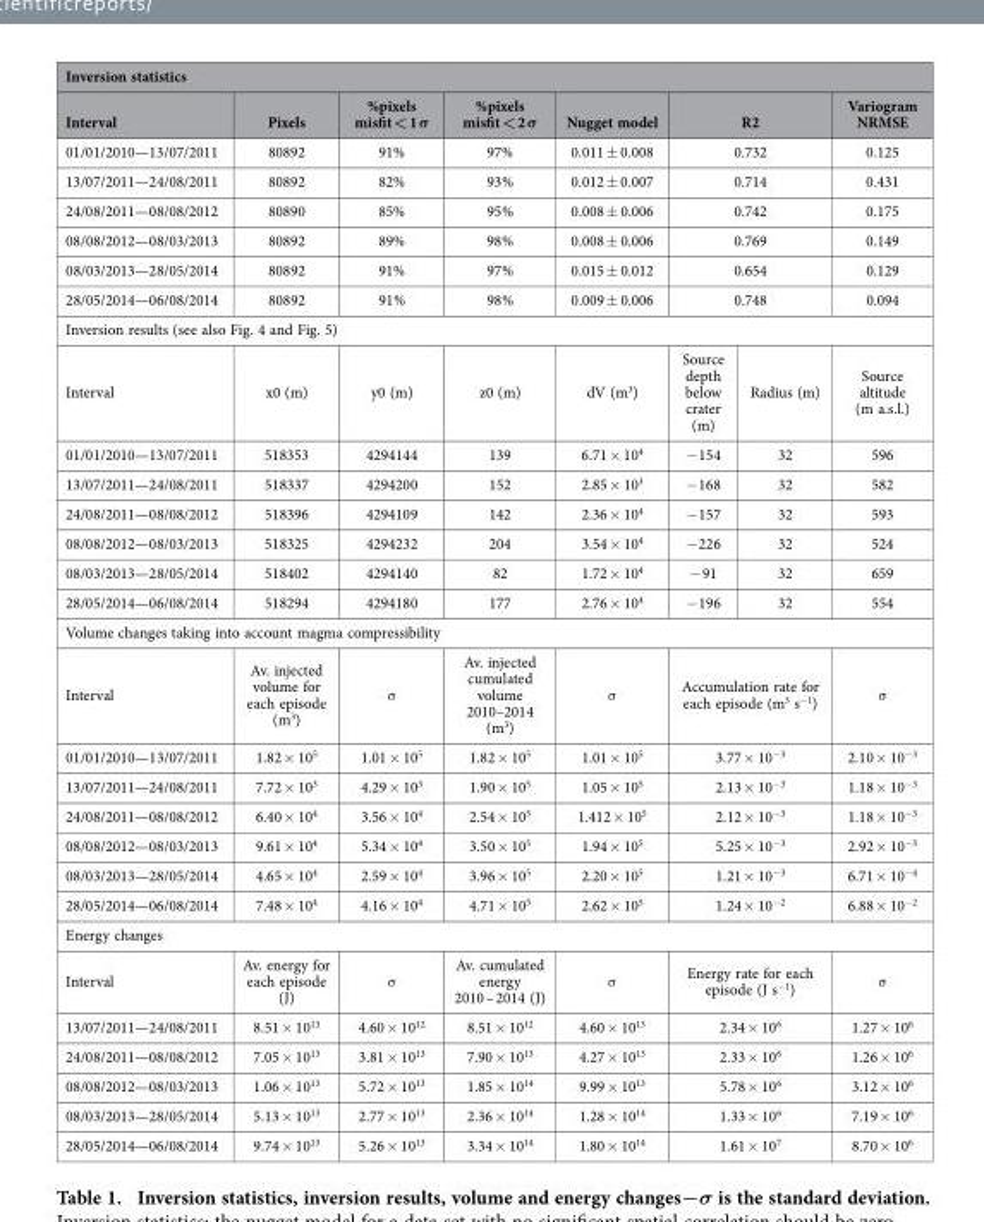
<table><thead><tr><td colspan="8">Inversion statistics</td></tr><tr><td>Interval</td><td>Pixels</td><td>%pixels misfit &lt; 1 σ</td><td>%pixels misfit &lt; 2 σ</td><td>Nugget model</td><td colspan="2">R2</td><td>Variogram NRMSE</td></tr></thead><tbody><tr><td>01/01/2010—13/07/2011</td><td>80892</td><td>91%</td><td>97%</td><td>0.011 ± 0.008</td><td colspan="2">0.732</td><td>0.125</td></tr><tr><td>13/07/2011—24/08/2011</td><td>80892</td><td>82%</td><td>93%</td><td>0.012 ± 0.007</td><td colspan="2">0.714</td><td>0.431</td></tr><tr><td>24/08/2011—08/08/2012</td><td>80890</td><td>85%</td><td>95%</td><td>0.008 ± 0.006</td><td colspan="2">0.742</td><td>0.175</td></tr><tr><td>08/08/2012—08/03/2013</td><td>80892</td><td>89%</td><td>98%</td><td>0.008 ± 0.006</td><td colspan="2">0.769</td><td>0.149</td></tr><tr><td>08/03/2013—28/05/2014</td><td>80892</td><td>91%</td><td>97%</td><td>0.015 ± 0.012</td><td colspan="2">0.654</td><td>0.129</td></tr><tr><td>28/05/2014—06/08/2014</td><td>80892</td><td>91%</td><td>98%</td><td>0.009 ± 0.006</td><td colspan="2">0.748</td><td>0.094</td></tr><tr><td colspan="8">Inversion results (see also Fig. 4 and Fig. 5)</td></tr><tr><td>Interval</td><td>x0 (m)</td><td>y0 (m)</td><td>z0 (m)</td><td>dV (m<sup>3</sup>)</td><td>Source depth below crater (m)</td><td>Radius (m)</td><td>Source altitude (m a.s.l.)</td></tr><tr><td>01/01/2010—13/07/2011</td><td>518353</td><td>4294144</td><td>139</td><td>6.71 × 10<sup>4</sup></td><td>− 154</td><td>32</td><td>596</td></tr><tr><td>13/07/2011—24/08/2011</td><td>518337</td><td>4294200</td><td>152</td><td>2.85 × 10<sup>3</sup></td><td>− 168</td><td>32</td><td>582</td></tr><tr><td>24/08/2011—08/08/2012</td><td>518396</td><td>4294109</td><td>142</td><td>2.36 × 10<sup>4</sup></td><td>− 157</td><td>32</td><td>593</td></tr><tr><td>08/08/2012—08/03/2013</td><td>518325</td><td>4294232</td><td>204</td><td>3.54 × 10<sup>4</sup></td><td>− 226</td><td>32</td><td>524</td></tr><tr><td>08/03/2013—28/05/2014</td><td>518402</td><td>4294140</td><td>82</td><td>1.72 × 10<sup>4</sup></td><td>− 91</td><td>32</td><td>659</td></tr><tr><td>28/05/2014—06/08/2014</td><td>518294</td><td>4294180</td><td>177</td><td>2.76 × 10<sup>4</sup></td><td>− 196</td><td>32</td><td>554</td></tr><tr><td colspan="8">Volume changes taking into account magma compressibility</td></tr><tr><td>Interval</td><td>Av. injected volume for each episode (m<sup>3</sup>)</td><td>σ</td><td>Av. injected cumulated volume 2010–2014 (m<sup>3</sup>)</td><td>σ</td><td colspan="2">Accumulation rate for each episode (m<sup>3</sup> s<sup>−1</sup>)</td><td>σ</td></tr><tr><td>01/01/2010—13/07/2011</td><td>1.82 × 10<sup>5</sup></td><td>1.01 × 10<sup>5</sup></td><td>1.82 × 10<sup>5</sup></td><td>1.01 × 10<sup>5</sup></td><td colspan="2">3.77 × 10<sup>−3</sup></td><td>2.10 × 10<sup>−3</sup></td></tr><tr><td>13/07/2011—24/08/2011</td><td>7.72 × 10<sup>3</sup></td><td>4.29 × 10<sup>3</sup></td><td>1.90 × 10<sup>5</sup></td><td>1.05 × 10<sup>5</sup></td><td colspan="2">2.13 × 10<sup>−3</sup></td><td>1.18 × 10<sup>−3</sup></td></tr><tr><td>24/08/2011—08/08/2012</td><td>6.40 × 10<sup>4</sup></td><td>3.56 × 10<sup>4</sup></td><td>2.54 × 10<sup>5</sup></td><td>1.412 × 10<sup>5</sup></td><td colspan="2">2.12 × 10<sup>−3</sup></td><td>1.18 × 10<sup>−3</sup></td></tr><tr><td>08/08/2012—08/03/2013</td><td>9.61 × 10<sup>4</sup></td><td>5.34 × 10<sup>4</sup></td><td>3.50 × 10<sup>5</sup></td><td>1.94 × 10<sup>5</sup></td><td colspan="2">5.25 × 10<sup>−3</sup></td><td>2.92 × 10<sup>−3</sup></td></tr><tr><td>08/03/2013—28/05/2014</td><td>4.65 × 10<sup>4</sup></td><td>2.59 × 10<sup>4</sup></td><td>3.96 × 10<sup>5</sup></td><td>2.20 × 10<sup>5</sup></td><td colspan="2">1.21 × 10<sup>−3</sup></td><td>6.71 × 10<sup>−4</sup></td></tr><tr><td>28/05/2014—06/08/2014</td><td>7.48 × 10<sup>4</sup></td><td>4.16 × 10<sup>4</sup></td><td>4.71 × 10<sup>5</sup></td><td>2.62 × 10<sup>5</sup></td><td colspan="2">1.24 × 10<sup>−2</sup></td><td>6.88 × 10<sup>−2</sup></td></tr><tr><td colspan="8">Energy changes</td></tr><tr><td>Interval</td><td>Av. energy for each episode (J)</td><td>σ</td><td>Av. cumulated energy 2010 – 2014 (J)</td><td>σ</td><td colspan="2">Energy rate for each episode (J s<sup>−1</sup>)</td><td>σ</td></tr><tr><td>13/07/2011—24/08/2011</td><td>8.51 × 10<sup>13</sup></td><td>4.60 × 10<sup>12</sup></td><td>8.51 × 10<sup>12</sup></td><td>4.60 × 10<sup>13</sup></td><td colspan="2">2.34 × 10<sup>6</sup></td><td>1.27 × 10<sup>6</sup></td></tr><tr><td>24/08/2011—08/08/2012</td><td>7.05 × 10<sup>13</sup></td><td>3.81 × 10<sup>13</sup></td><td>7.90 × 10<sup>13</sup></td><td>4.27 × 10<sup>13</sup></td><td colspan="2">2.33 × 10<sup>6</sup></td><td>1.26 × 10<sup>6</sup></td></tr><tr><td>08/08/2012—08/03/2013</td><td>1.06 × 10<sup>13</sup></td><td>5.72 × 10<sup>13</sup></td><td>1.85 × 10<sup>14</sup></td><td>9.99 × 10<sup>13</sup></td><td colspan="2">5.78 × 10<sup>6</sup></td><td>3.12 × 10<sup>6</sup></td></tr><tr><td>08/03/2013—28/05/2014</td><td>5.13 × 10<sup>13</sup></td><td>2.77 × 10<sup>13</sup></td><td>2.36 × 10<sup>14</sup></td><td>1.28 × 10<sup>14</sup></td><td colspan="2">1.33 × 10<sup>6</sup></td><td>7.19 × 10<sup>6</sup></td></tr><tr><td>28/05/2014—06/08/2014</td><td>9.74 × 10<sup>13</sup></td><td>5.26 × 10<sup>13</sup></td><td>3.34 × 10<sup>14</sup></td><td>1.80 × 10<sup>14</sup></td><td colspan="2">1.61 × 10<sup>7</sup></td><td>8.70 × 10<sup>6</sup></td></tr></tbody></table>